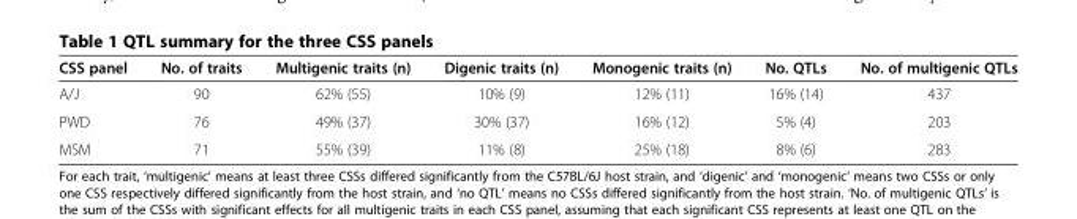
<table><thead><tr><td>CSS panel</td><td>No. of traits</td><td>Multigenic traits (n)</td><td>Digenic traits (n)</td><td>Monogenic traits (n)</td><td>No. QTLs</td><td>No. of multigenic QTLs</td></tr></thead><tbody><tr><td>A/J</td><td>90</td><td>62% (55)</td><td>10% (9)</td><td>12% (11)</td><td>16% (14)</td><td>437</td></tr><tr><td>PWD</td><td>76</td><td>49% (37)</td><td>30% (37)</td><td>16% (12)</td><td>5% (4)</td><td>203</td></tr><tr><td>MSM</td><td>71</td><td>55% (39)</td><td>11% (8)</td><td>25% (18)</td><td>8% (6)</td><td>283</td></tr></tbody></table>